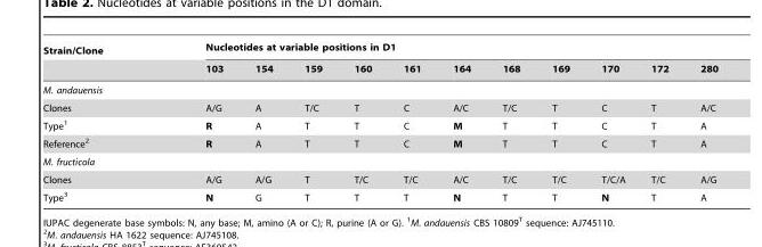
<table><thead><tr><td rowspan="2">Strain/Clone</td><td colspan="11">Nucleotides at variable positions in D1</td></tr><tr><td>103</td><td>154</td><td>159</td><td>160</td><td>161</td><td>164</td><td>168</td><td>169</td><td>170</td><td>172</td><td>280</td></tr></thead><tbody><tr><td colspan="12">M. andauensis</td></tr><tr><td>Clones</td><td>A/G</td><td>A</td><td>T/C</td><td>T</td><td>C</td><td>A/C</td><td>T/C</td><td>T</td><td>C</td><td>T</td><td>A/C</td></tr><tr><td>Type<sup>1</sup></td><td>R</td><td>A</td><td>T</td><td>T</td><td>C</td><td>M</td><td>T</td><td>T</td><td>C</td><td>T</td><td>A</td></tr><tr><td>Reference<sup>2</sup></td><td>R</td><td>A</td><td>T</td><td>T</td><td>C</td><td>M</td><td>T</td><td>T</td><td>C</td><td>T</td><td>A</td></tr><tr><td colspan="12">M. fructicola</td></tr><tr><td>Clones</td><td>A/G</td><td>A/G</td><td>T</td><td>T/C</td><td>T/C</td><td>A/C</td><td>T/C</td><td>T/C</td><td>T/C/A</td><td>T/C</td><td>A/G</td></tr><tr><td>Type<sup>3</sup></td><td>N</td><td>G</td><td>T</td><td>T</td><td>T</td><td>N</td><td>T</td><td>T</td><td>N</td><td>T</td><td>A</td></tr></tbody></table>